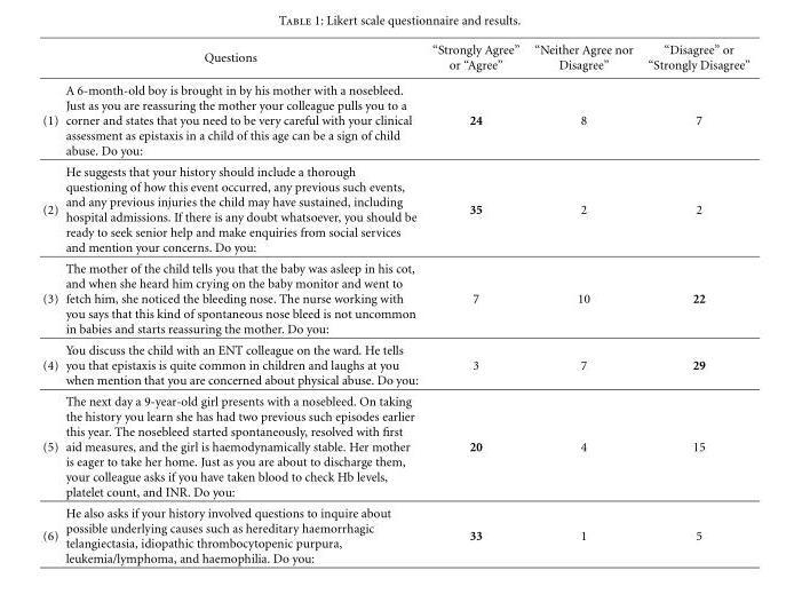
<table><thead><tr><td colspan="2">Questions</td><td rowspan="2">“Strongly Agree” or “Agree” 24</td><td rowspan="2">“Neither Agree nor Disagree” 8</td><td rowspan="2">“Disagree” or “Strongly Disagree” 7</td></tr><tr><td>(1)</td><td>A 6-month-old boy is brought in by his mother with a nosebleed. Just as you are reassuring the mother your colleague pulls you to a corner and states that you need to be very careful with your clinical assessment as epistaxis in a child of this age can be a sign of child abuse. Do you:</td></tr></thead><tbody><tr><td>(2)</td><td>He suggests that your history should include a thorough questioning of how this event occurred, any previous such events, and any previous injuries the child may have sustained, including hospital admissions. If there is any doubt whatsoever, you should be ready to seek senior help and make enquiries from social services and mention your concerns. Do you:</td><td>35</td><td>2</td><td>2</td></tr><tr><td>(3)</td><td>The mother of the child tells you that the baby was asleep in his cot, and when she heard him crying on the baby monitor and went to fetch him, she noticed the bleeding nose. The nurse working with you says that this kind of spontaneous nose bleed is not uncommon in babies and starts reassuring the mother. Do you:</td><td>7</td><td>10</td><td>22</td></tr><tr><td>(4)</td><td>You discuss the child with an ENT colleague on the ward. He tells you that epistaxis is quite common in children and laughs at you when mention that you are concerned about physical abuse. Do you:</td><td>3</td><td>7</td><td>29</td></tr><tr><td>(5)</td><td>The next day a 9-year-old girl presents with a nosebleed. On taking the history you learn she has had two previous such episodes earlier this year. The nosebleed started spontaneously, resolved with first aid measures, and the girl is haemodynamically stable. Her mother is eager to take her home. Just as you are about to discharge them, your colleague asks if you have taken blood to check Hb levels, platelet count, and INR. Do you:</td><td>20</td><td>4</td><td>15</td></tr><tr><td>(6)</td><td>He also asks if your history involved questions to inquire about possible underlying causes such as hereditary haemorrhagic telangiectasia, idiopathic thrombocytopenic purpura, leukemia/lymphoma, and haemophilia. Do you:</td><td>33</td><td>1</td><td>5</td></tr></tbody></table>